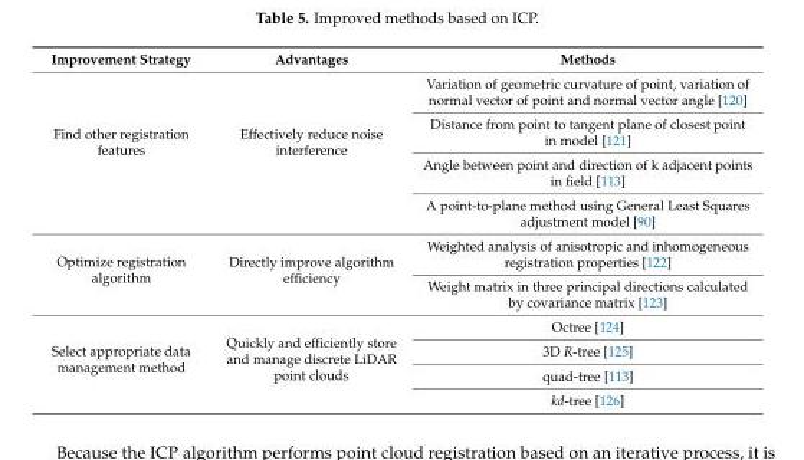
<table><thead><tr><td>Improvement Strategy</td><td>Advantages</td><td>Methods</td></tr></thead><tbody><tr><td rowspan="4">Find other registration features</td><td rowspan="4">Effectively reduce noise interference</td><td>Variation of geometric curvature of point, variation of normal vector of point and normal vector angle [120]</td></tr><tr><td>Distance from point to tangent plane of closest point in model [121]</td></tr><tr><td>Angle between point and direction of k adjacent points in field [113]</td></tr><tr><td>A point-to-plane method using General Least Squares adjustment model [90]</td></tr><tr><td rowspan="2">Optimize registration algorithm</td><td rowspan="2">Directly improve algorithm efficiency</td><td>Weighted analysis of anisotropic and inhomogeneous registration properties [122]</td></tr><tr><td>Weight matrix in three principal directions calculated by covariance matrix [123]</td></tr><tr><td rowspan="4">Select appropriate data management method</td><td rowspan="4">Quickly and efficiently store and manage discrete LiDAR point clouds</td><td>Octree [124]</td></tr><tr><td>3D R-tree [125]</td></tr><tr><td>quad-tree [113]</td></tr><tr><td>kd-tree [126]</td></tr></tbody></table>